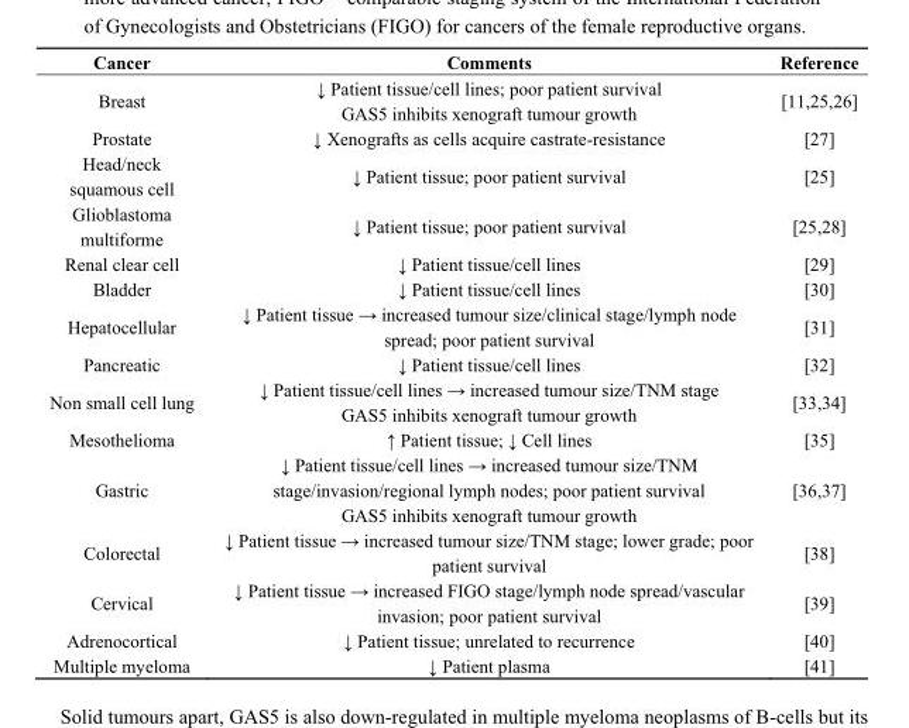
<table><thead><tr><td>Cancer</td><td>Comments</td><td>Reference</td></tr></thead><tbody><tr><td>Breast</td><td>↓ Patient tissue/cell lines; poor patient survival GAS5 inhibits xenograft tumour growth</td><td>[11,25,26]</td></tr><tr><td>Prostate</td><td>↓ Xenografts as cells acquire castrate-resistance</td><td>[27]</td></tr><tr><td>Head/neck squamous cell</td><td>↓ Patient tissue; poor patient survival</td><td>[25]</td></tr><tr><td>Glioblastoma multiforme</td><td>↓ Patient tissue; poor patient survival</td><td>[25,28]</td></tr><tr><td>Renal clear cell</td><td>↓ Patient tissue/cell lines</td><td>[29]</td></tr><tr><td>Bladder</td><td>↓ Patient tissue/cell lines</td><td>[30]</td></tr><tr><td>Hepatocellular</td><td>↓ Patient tissue → increased tumour size/clinical stage/lymph node spread; poor patient survival</td><td>[31]</td></tr><tr><td>Pancreatic</td><td>↓ Patient tissue/cell lines</td><td>[32]</td></tr><tr><td>Non small cell lung</td><td>↓ Patient tissue/cell lines → increased tumour size/TNM stage GAS5 inhibits xenograft tumour growth</td><td>[33,34]</td></tr><tr><td>Mesothelioma</td><td>↑ Patient tissue; ↓ Cell lines</td><td>[35]</td></tr><tr><td>Gastric</td><td>↓ Patient tissue/cell lines → increased tumour size/TNM stage/invasion/regional lymph nodes; poor patient survival GAS5 inhibits xenograft tumour growth</td><td>[36,37]</td></tr><tr><td>Colorectal</td><td>↓ Patient tissue → increased tumour size/TNM stage; lower grade; poor patient survival</td><td>[38]</td></tr><tr><td>Cervical</td><td>↓ Patient tissue → increased FIGO stage/lymph node spread/vascular invasion; poor patient survival</td><td>[39]</td></tr><tr><td>Adrenocortical</td><td>↓ Patient tissue; unrelated to recurrence</td><td>[40]</td></tr><tr><td>Multiple myeloma</td><td>↓ Patient plasma</td><td>[41]</td></tr></tbody></table>